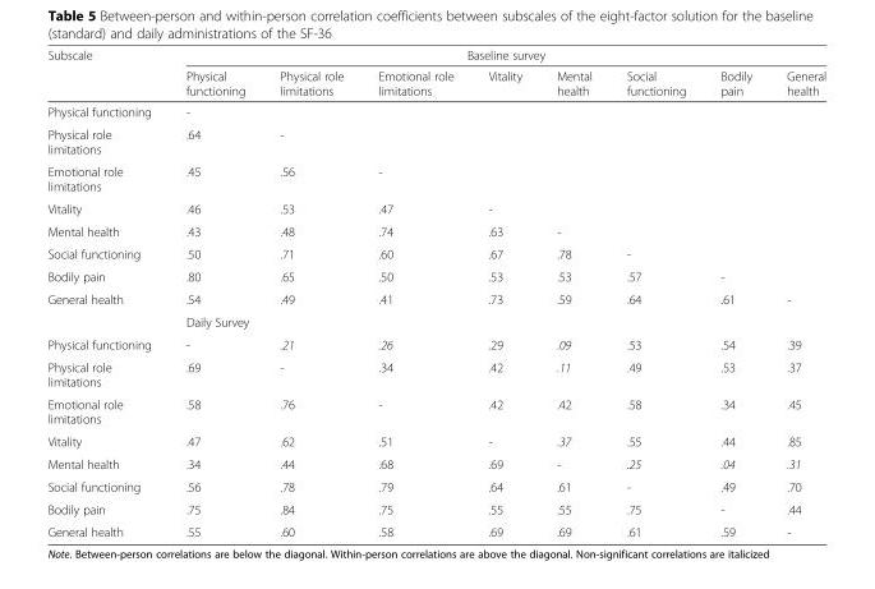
<table><thead><tr><td rowspan="2">Subscale</td><td colspan="8">Baseline survey</td></tr><tr><td>Physical functioning</td><td>Physical role limitations</td><td>Emotional role limitations</td><td>Vitality</td><td>Mental health</td><td>Social functioning</td><td>Bodily pain</td><td>General health</td></tr></thead><tbody><tr><td>Physical functioning</td><td>-</td><td></td><td></td><td></td><td></td><td></td><td></td><td></td></tr><tr><td>Physical role limitations</td><td>.64</td><td>-</td><td></td><td></td><td></td><td></td><td></td><td></td></tr><tr><td>Emotional role limitations</td><td>.45</td><td>.56</td><td>-</td><td></td><td></td><td></td><td></td><td></td></tr><tr><td>Vitality</td><td>.46</td><td>.53</td><td>.47</td><td>-</td><td></td><td></td><td></td><td></td></tr><tr><td>Mental health</td><td>.43</td><td>.48</td><td>.74</td><td>.63</td><td>-</td><td></td><td></td><td></td></tr><tr><td>Social functioning</td><td>.50</td><td>.71</td><td>.60</td><td>.67</td><td>.78</td><td>-</td><td></td><td></td></tr><tr><td>Bodily pain</td><td>.80</td><td>.65</td><td>.50</td><td>.53</td><td>.53</td><td>.57</td><td>-</td><td></td></tr><tr><td rowspan="2">General health</td><td>.54</td><td>.49</td><td>.41</td><td>.73</td><td>.59</td><td>.64</td><td>.61</td><td>-</td></tr><tr><td colspan="8">Daily Survey</td></tr><tr><td>Physical functioning</td><td>-</td><td>.21</td><td>.26</td><td>.29</td><td>.09</td><td>.53</td><td>.54</td><td>.39</td></tr><tr><td>Physical role limitations</td><td>.69</td><td>-</td><td>.34</td><td>.42</td><td>.11</td><td>.49</td><td>.53</td><td>.37</td></tr><tr><td>Emotional role limitations</td><td>.58</td><td>.76</td><td>-</td><td>.42</td><td>.42</td><td>.58</td><td>.34</td><td>.45</td></tr><tr><td>Vitality</td><td>.47</td><td>.62</td><td>.51</td><td>-</td><td>.37</td><td>.55</td><td>.44</td><td>.85</td></tr><tr><td>Mental health</td><td>.34</td><td>.44</td><td>.68</td><td>.69</td><td>-</td><td>.25</td><td>.04</td><td>.31</td></tr><tr><td>Social functioning</td><td>.56</td><td>.78</td><td>.79</td><td>.64</td><td>.61</td><td>-</td><td>.49</td><td>.70</td></tr><tr><td>Bodily pain</td><td>.75</td><td>.84</td><td>.75</td><td>.55</td><td>.55</td><td>.75</td><td>-</td><td>.44</td></tr><tr><td>General health</td><td>.55</td><td>.60</td><td>.58</td><td>.69</td><td>.69</td><td>.61</td><td>.59</td><td>-</td></tr></tbody></table>